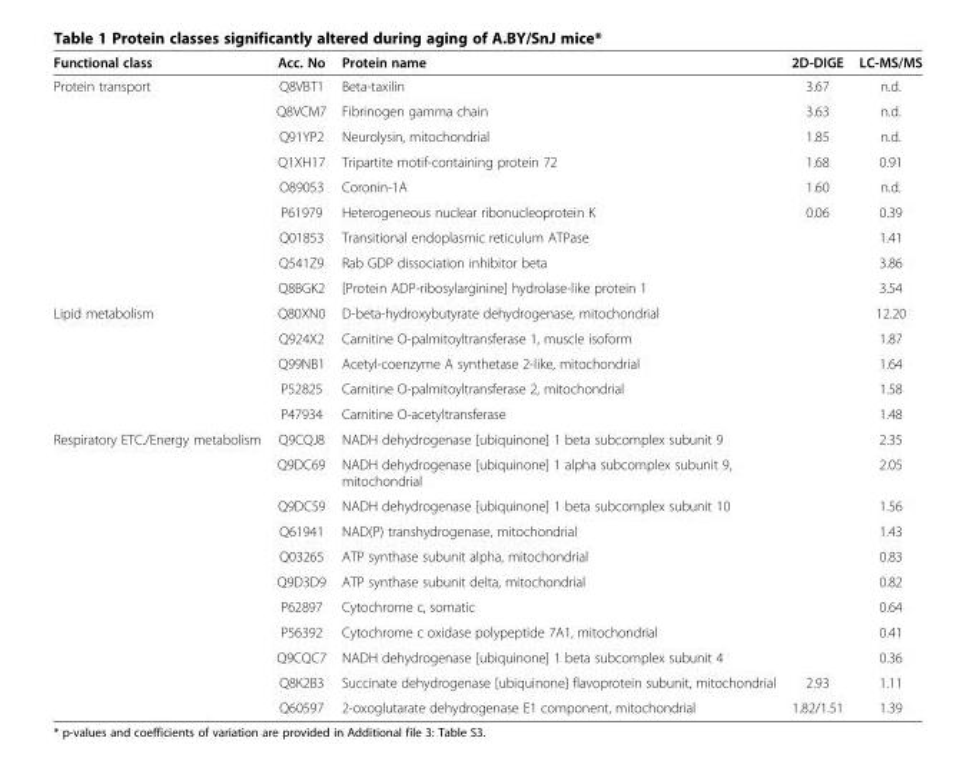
<table><thead><tr><td>Functional class</td><td>Acc. No</td><td>Protein name</td><td>2D-DIGE</td><td>LC-MS/MS</td></tr></thead><tbody><tr><td rowspan="9">Protein transport</td><td>Q8VBT1</td><td>Beta-taxilin</td><td>3.67</td><td>n.d.</td></tr><tr><td>Q8VCM7</td><td>Fibrinogen gamma chain</td><td>3.63</td><td>n.d.</td></tr><tr><td>Q91YP2</td><td>Neurolysin, mitochondrial</td><td>1.85</td><td>n.d.</td></tr><tr><td>Q1XH17</td><td>Tripartite motif-containing protein 72</td><td>1.68</td><td>0.91</td></tr><tr><td>O89053</td><td>Coronin-1A</td><td>1.60</td><td>n.d.</td></tr><tr><td>P61979</td><td>Heterogeneous nuclear ribonucleoprotein K</td><td>0.06</td><td>0.39</td></tr><tr><td>Q01853</td><td>Transitional endoplasmic reticulum ATPase</td><td></td><td>1.41</td></tr><tr><td>Q541Z9</td><td>Rab GDP dissociation inhibitor beta</td><td></td><td>3.86</td></tr><tr><td>Q8BGK2</td><td>[Protein ADP-ribosylarginine] hydrolase-like protein 1</td><td></td><td>3.54</td></tr><tr><td rowspan="5">Lipid metabolism</td><td>Q80XN0</td><td>D-beta-hydroxybutyrate dehydrogenase, mitochondrial</td><td></td><td>12.20</td></tr><tr><td>Q924X2</td><td>Carnitine O-palmitoyltransferase 1, muscle isoform</td><td></td><td>1.87</td></tr><tr><td>Q99NB1</td><td>Acetyl-coenzyme A synthetase 2-like, mitochondrial</td><td></td><td>1.64</td></tr><tr><td>P52825</td><td>Carnitine O-palmitoyltransferase 2, mitochondrial</td><td></td><td>1.58</td></tr><tr><td>P47934</td><td>Carnitine O-acetyltransferase</td><td></td><td>1.48</td></tr><tr><td rowspan="11">Respiratory ETC./Energy metabolism</td><td>Q9CQJ8</td><td>NADH dehydrogenase [ubiquinone] 1 beta subcomplex subunit 9</td><td></td><td>2.35</td></tr><tr><td>Q9DC69</td><td>NADH dehydrogenase [ubiquinone] 1 alpha subcomplex subunit 9, mitochondrial</td><td></td><td>2.05</td></tr><tr><td>Q9DCS9</td><td>NADH dehydrogenase [ubiquinone] 1 beta subcomplex subunit 10</td><td></td><td>1.56</td></tr><tr><td>Q61941</td><td>NAD(P) transhydrogenase, mitochondrial</td><td></td><td>1.43</td></tr><tr><td>Q03265</td><td>ATP synthase subunit alpha, mitochondrial</td><td></td><td>0.83</td></tr><tr><td>Q9D3D9</td><td>ATP synthase subunit delta, mitochondrial</td><td></td><td>0.82</td></tr><tr><td>P62897</td><td>Cytochrome c, somatic</td><td></td><td>0.64</td></tr><tr><td>P56392</td><td>Cytochrome c oxidase polypeptide 7A1, mitochondrial</td><td></td><td>0.41</td></tr><tr><td>Q9CQC7</td><td>NADH dehydrogenase [ubiquinone] 1 beta subcomplex subunit 4</td><td></td><td>0.36</td></tr><tr><td>Q8K2B3</td><td>Succinate dehydrogenase [ubiquinone] flavoprotein subunit, mitochondrial</td><td>2.93</td><td>1.11</td></tr><tr><td>Q60597</td><td>2-oxoglutarate dehydrogenase E1 component, mitochondrial</td><td>1.82/1.51</td><td>1.39</td></tr></tbody></table>